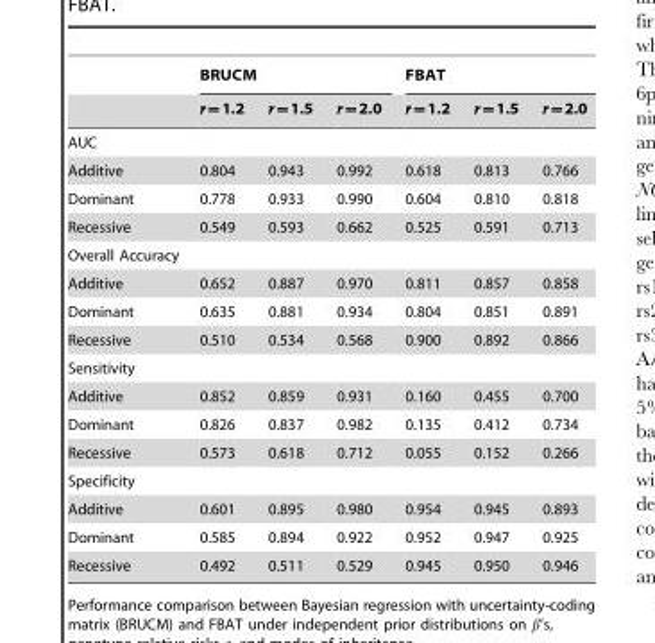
<table><thead><tr><td rowspan="2"></td><td colspan="3">BRUCM</td><td colspan="3">FBAT</td></tr><tr><td>r~1.2</td><td>r~1.5</td><td>r~2.0</td><td>r~1.2</td><td>r~1.5</td><td>r~2.0</td></tr></thead><tbody><tr><td colspan="7">AUC</td></tr><tr><td>Additive</td><td>0.804</td><td>0.943</td><td>0.992</td><td>0.618</td><td>0.813</td><td>0.766</td></tr><tr><td>Dominant</td><td>0.778</td><td>0.933</td><td>0.990</td><td>0.604</td><td>0.810</td><td>0.818</td></tr><tr><td>Recessive</td><td>0.549</td><td>0.593</td><td>0.662</td><td>0.525</td><td>0.591</td><td>0.713</td></tr><tr><td colspan="7">Overall Accuracy</td></tr><tr><td>Additive</td><td>0.652</td><td>0.887</td><td>0.970</td><td>0.811</td><td>0.857</td><td>0.858</td></tr><tr><td>Dominant</td><td>0.635</td><td>0.881</td><td>0.934</td><td>0.804</td><td>0.851</td><td>0.891</td></tr><tr><td>Recessive</td><td>0.510</td><td>0.534</td><td>0.568</td><td>0.900</td><td>0.892</td><td>0.866</td></tr><tr><td colspan="7">Sensitivity</td></tr><tr><td>Additive</td><td>0.852</td><td>0.859</td><td>0.931</td><td>0.160</td><td>0.455</td><td>0.700</td></tr><tr><td>Dominant</td><td>0.826</td><td>0.837</td><td>0.982</td><td>0.135</td><td>0.412</td><td>0.734</td></tr><tr><td>Recessive</td><td>0.573</td><td>0.618</td><td>0.712</td><td>0.055</td><td>0.152</td><td>0.266</td></tr><tr><td colspan="7">Specificity</td></tr><tr><td>Additive</td><td>0.601</td><td>0.895</td><td>0.980</td><td>0.954</td><td>0.945</td><td>0.893</td></tr><tr><td>Dominant</td><td>0.585</td><td>0.894</td><td>0.922</td><td>0.952</td><td>0.947</td><td>0.925</td></tr><tr><td>Recessive</td><td>0.492</td><td>0.511</td><td>0.529</td><td>0.945</td><td>0.950</td><td>0.946</td></tr></tbody></table>